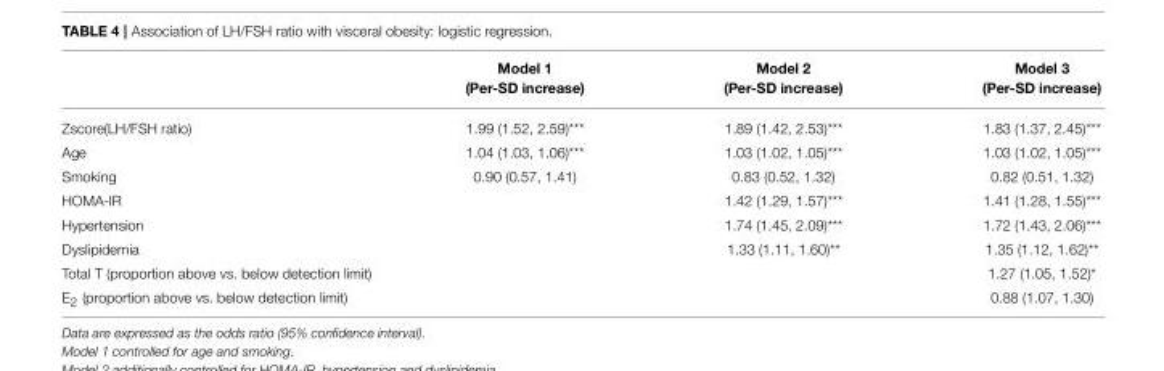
<table><thead><tr><td></td><td>Model 1 (Per-SD increase)</td><td>Model 2 (Per-SD increase)</td><td>Model 3 (Per-SD increase)</td></tr></thead><tbody><tr><td>Zscore(LH/FSH ratio)</td><td>1.99 (1.52, 2.59)***</td><td>1.89 (1.42, 2.53)***</td><td>1.83 (1.37, 2.45)***</td></tr><tr><td>Age</td><td>1.04 (1.03, 1.06)***</td><td>1.03 (1.02, 1.05)***</td><td>1.03 (1.02, 1.05)***</td></tr><tr><td>Smoking</td><td>0.90 (0.57, 1.41)</td><td>0.83 (0.52, 1.32)</td><td>0.82 (0.51, 1.32)</td></tr><tr><td>HOMA-IR</td><td></td><td>1.42 (1.29, 1.57)***</td><td>1.41 (1.28, 1.55)***</td></tr><tr><td>Hypertension</td><td></td><td>1.74 (1.45, 2.09)***</td><td>1.72 (1.43, 2.06)***</td></tr><tr><td>Dyslipidemia</td><td></td><td>1.33 (1.11, 1.60)**</td><td>1.35 (1.12, 1.62)**</td></tr><tr><td>Total T (proportion above vs. below detection limit)</td><td></td><td></td><td>1.27 (1.05, 1.52)*</td></tr><tr><td>E<sub>2</sub> (proportion above vs. below detection limit)</td><td></td><td></td><td>0.88 (1.07, 1.30)</td></tr></tbody></table>